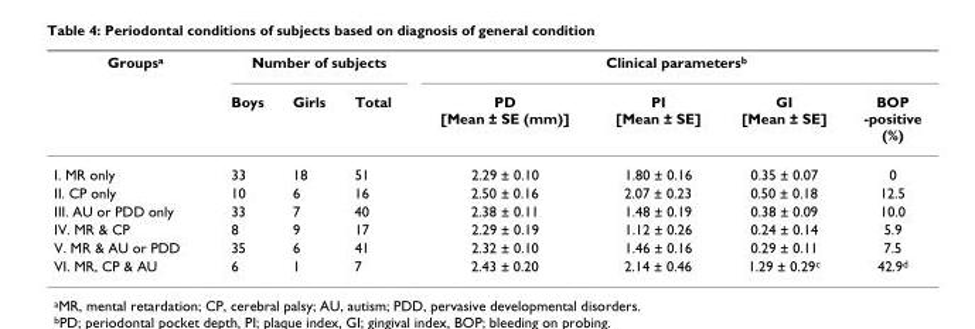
<table><thead><tr><td rowspan="2">Groups<sup>a</sup></td><td colspan="3">Number of subjects</td><td colspan="4">Clinical parameters<sup>b</sup></td></tr><tr><td>Boys</td><td>Girls</td><td>Total</td><td>PD [Mean ± SE (mm)]</td><td>PI [Mean ± SE]</td><td>GI [Mean ± SE]</td><td>BOP -positive (%)</td></tr></thead><tbody><tr><td>I. MR only</td><td>33</td><td>18</td><td>51</td><td>2.29 ± 0.10</td><td>1.80 ± 0.16</td><td>0.35 ± 0.07</td><td>0</td></tr><tr><td>II. CP only</td><td>10</td><td>6</td><td>16</td><td>2.50 ± 0.16</td><td>2.07 ± 0.23</td><td>0.50 ± 0.18</td><td>12.5</td></tr><tr><td>III. AU or PDD only</td><td>33</td><td>7</td><td>40</td><td>2.38 ± 0.11</td><td>1.48 ± 0.19</td><td>0.38 ± 0.09</td><td>10.0</td></tr><tr><td>IV. MR &amp; CP</td><td>8</td><td>9</td><td>17</td><td>2.29 ± 0.19</td><td>1.12 ± 0.26</td><td>0.24 ± 0.14</td><td>5.9</td></tr><tr><td>V. MR &amp; AU or PDD</td><td>35</td><td>6</td><td>41</td><td>2.32 ± 0.10</td><td>1.46 ± 0.16</td><td>0.29 ± 0.11</td><td>7.5</td></tr><tr><td>VI. MR, CP &amp; AU</td><td>6</td><td>1</td><td>7</td><td>2.43 ± 0.20</td><td>2.14 ± 0.46</td><td>1.29 ± 0.29<sup>c</sup></td><td>42.9<sup>d</sup></td></tr></tbody></table>